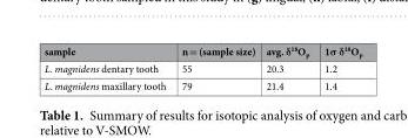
<table><thead><tr><td>sample</td><td>n = (sample size)</td><td>avg. δ<sup>18</sup>O<sub>p</sub></td><td>1σ δ<sup>18</sup>O<sub>p</sub></td></tr></thead><tbody><tr><td>L. magnidens dentary tooth</td><td>55</td><td>20.3</td><td>1.2</td></tr><tr><td>L. magnidens maxillary tooth</td><td>79</td><td>21.4</td><td>1.4</td></tr></tbody></table>